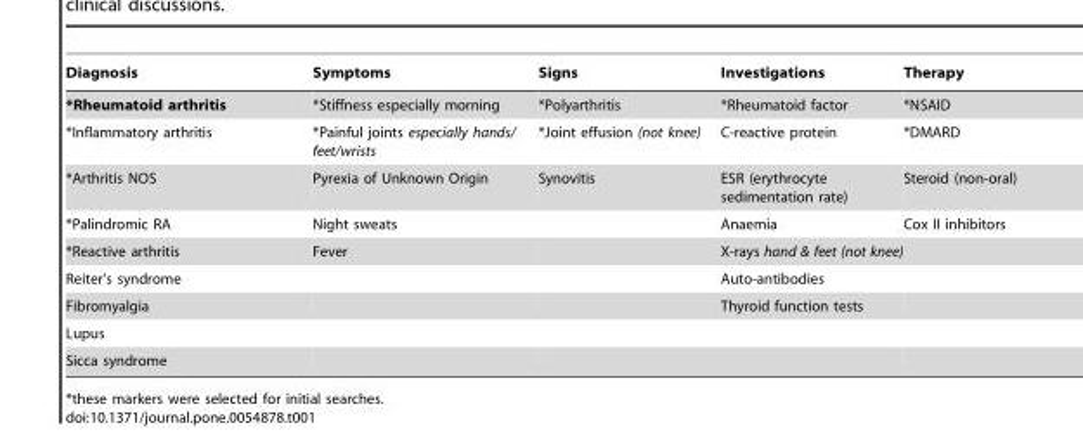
<table><thead><tr><td>Diagnosis</td><td>Symptoms</td><td>Signs</td><td>Investigations</td><td>Therapy</td></tr></thead><tbody><tr><td>*Rheumatoid arthritis</td><td>*Stiffness especially morning</td><td>*Polyarthritis</td><td>*Rheumatoid factor</td><td>*NSAID</td></tr><tr><td>*Inflammatory arthritis</td><td>*Painful joints especially hands/ feet/wrists</td><td>*Joint effusion (not knee)</td><td>C-reactive protein</td><td>*DMARD</td></tr><tr><td>*Arthritis NOS</td><td>Pyrexia of Unknown Origin</td><td>Synovitis</td><td>ESR (erythrocyte sedimentation rate)</td><td>Steroid (non-oral)</td></tr><tr><td>*Palindromic RA</td><td>Night sweats</td><td></td><td>Anaemia</td><td>Cox II inhibitors</td></tr><tr><td>*Reactive arthritis</td><td>Fever</td><td></td><td>X-rays hand &amp; feet (not knee)</td><td></td></tr><tr><td>Reiter’s syndrome</td><td></td><td></td><td>Auto-antibodies</td><td></td></tr><tr><td>Fibromyalgia</td><td></td><td></td><td>Thyroid function tests</td><td></td></tr><tr><td colspan="5">Lupus</td></tr><tr><td>Sicca syndrome</td><td></td><td></td><td></td><td></td></tr></tbody></table>